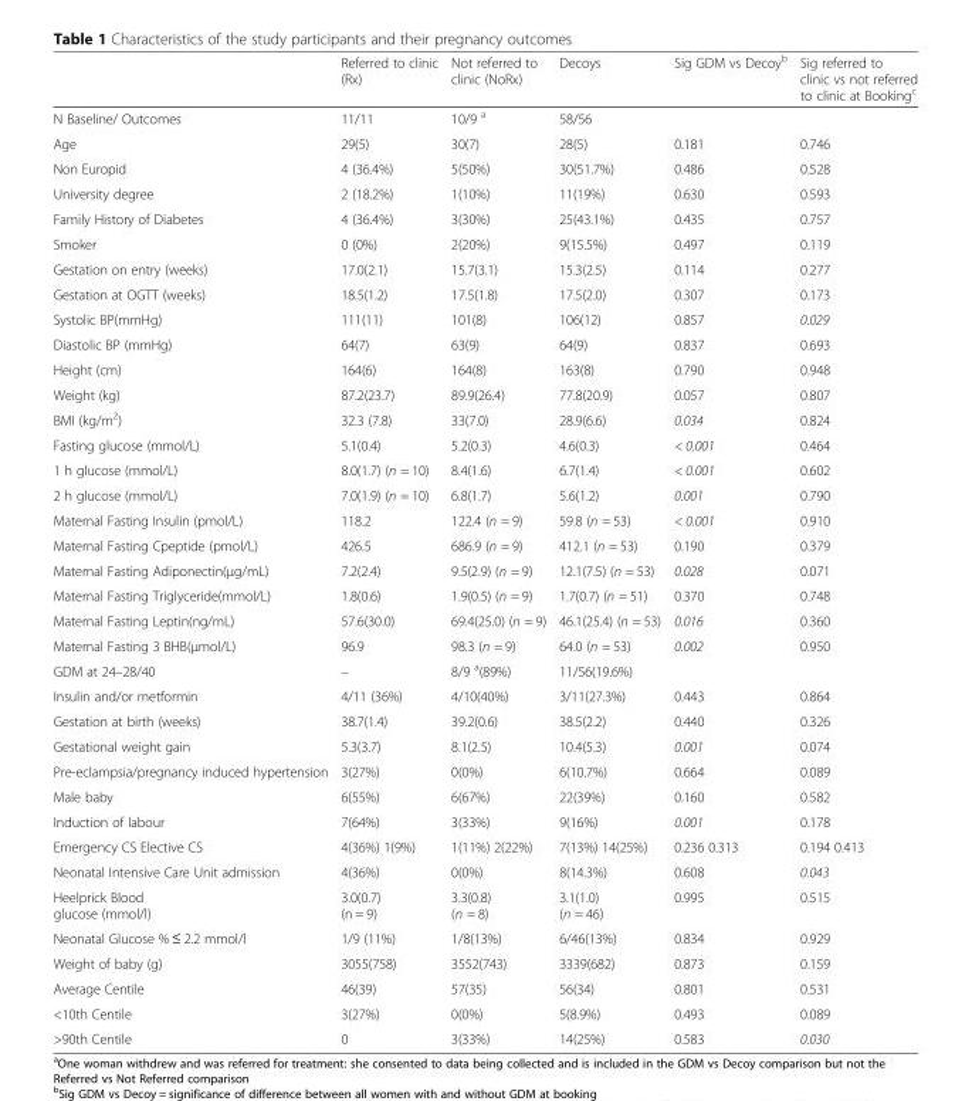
<table><thead><tr><td></td><td>Referred to clinic (Rx)</td><td>Not referred to clinic (NoRx)</td><td>Decoys</td><td>Sig GDM vs Decoy<sup>b</sup></td><td>Sig referred to clinic vs not referred to clinic at Booking<sup>c</sup></td></tr></thead><tbody><tr><td>N Baseline/ Outcomes</td><td>11/11</td><td>10/9 <sup>a</sup></td><td>58/56</td><td></td><td></td></tr><tr><td>Age</td><td>29(5)</td><td>30(7)</td><td>28(5)</td><td>0.181</td><td>0.746</td></tr><tr><td>Non Europid</td><td>4 (36.4%)</td><td>5(50%)</td><td>30(51.7%)</td><td>0.486</td><td>0.528</td></tr><tr><td>University degree</td><td>2 (18.2%)</td><td>1(10%)</td><td>11(19%)</td><td>0.630</td><td>0.593</td></tr><tr><td>Family History of Diabetes</td><td>4 (36.4%)</td><td>3(30%)</td><td>25(43.1%)</td><td>0.435</td><td>0.757</td></tr><tr><td>Smoker</td><td>0 (0%)</td><td>2(20%)</td><td>9(15.5%)</td><td>0.497</td><td>0.119</td></tr><tr><td>Gestation on entry (weeks)</td><td>17.0(2.1)</td><td>15.7(3.1)</td><td>15.3(2.5)</td><td>0.114</td><td>0.277</td></tr><tr><td>Gestation at OGTT (weeks)</td><td>18.5(1.2)</td><td>17.5(1.8)</td><td>17.5(2.0)</td><td>0.307</td><td>0.173</td></tr><tr><td>Systolic BP(mmHg)</td><td>111(11)</td><td>101(8)</td><td>106(12)</td><td>0.857</td><td>0.029</td></tr><tr><td>Diastolic BP (mmHg)</td><td>64(7)</td><td>63(9)</td><td>64(9)</td><td>0.837</td><td>0.693</td></tr><tr><td>Height (cm)</td><td>164(6)</td><td>164(8)</td><td>163(8)</td><td>0.790</td><td>0.948</td></tr><tr><td>Weight (kg)</td><td>87.2(23.7)</td><td>89.9(26.4)</td><td>77.8(20.9)</td><td>0.057</td><td>0.807</td></tr><tr><td>BMI (kg/m<sup>2</sup>)</td><td>32.3 (7.8)</td><td>33(7.0)</td><td>28.9(6.6)</td><td>0.034</td><td>0.824</td></tr><tr><td>Fasting glucose (mmol/L)</td><td>5.1(0.4)</td><td>5.2(0.3)</td><td>4.6(0.3)</td><td>&lt; 0.001</td><td>0.464</td></tr><tr><td>1 h glucose (mmol/L)</td><td>8.0(1.7) (n = 10)</td><td>8.4(1.6)</td><td>6.7(1.4)</td><td>&lt; 0.001</td><td>0.602</td></tr><tr><td>2 h glucose (mmol/L)</td><td>7.0(1.9) (n = 10)</td><td>6.8(1.7)</td><td>5.6(1.2)</td><td>0.001</td><td>0.790</td></tr><tr><td>Maternal Fasting Insulin (pmol/L)</td><td>118.2</td><td>122.4 (n = 9)</td><td>59.8 (n = 53)</td><td>&lt; 0.001</td><td>0.910</td></tr><tr><td>Maternal Fasting Cpeptide (pmol/L)</td><td>426.5</td><td>686.9 (n = 9)</td><td>412.1 (n = 53)</td><td>0.190</td><td>0.379</td></tr><tr><td>Maternal Fasting Adiponectin(μg/mL)</td><td>7.2(2.4)</td><td>9.5(2.9) (n = 9)</td><td>12.1(7.5) (n = 53)</td><td>0.028</td><td>0.071</td></tr><tr><td>Maternal Fasting Triglyceride(mmol/L)</td><td>1.8(0.6)</td><td>1.9(0.5) (n = 9)</td><td>1.7(0.7) (n = 51)</td><td>0.370</td><td>0.748</td></tr><tr><td>Maternal Fasting Leptin(ng/mL)</td><td>57.6(30.0)</td><td>69.4(25.0) (n = 9)</td><td>46.1(25.4) (n = 53)</td><td>0.016</td><td>0.360</td></tr><tr><td>Maternal Fasting 3 BHB(μmol/L)</td><td>96.9</td><td>98.3 (n = 9)</td><td>64.0 (n = 53)</td><td>0.002</td><td>0.950</td></tr><tr><td>GDM at 24–28/40</td><td>–</td><td>8/9 <sup>a</sup>(89%)</td><td>11/56(19.6%)</td><td></td><td></td></tr><tr><td>Insulin and/or metformin</td><td>4/11 (36%)</td><td>4/10(40%)</td><td>3/11(27.3%)</td><td>0.443</td><td>0.864</td></tr><tr><td>Gestation at birth (weeks)</td><td>38.7(1.4)</td><td>39.2(0.6)</td><td>38.5(2.2)</td><td>0.440</td><td>0.326</td></tr><tr><td>Gestational weight gain</td><td>5.3(3.7)</td><td>8.1(2.5)</td><td>10.4(5.3)</td><td>0.001</td><td>0.074</td></tr><tr><td>Pre-eclampsia/pregnancy induced hypertension</td><td>3(27%)</td><td>0(0%)</td><td>6(10.7%)</td><td>0.664</td><td>0.089</td></tr><tr><td>Male baby</td><td>6(55%)</td><td>6(67%)</td><td>22(39%)</td><td>0.160</td><td>0.582</td></tr><tr><td>Induction of labour</td><td>7(64%)</td><td>3(33%)</td><td>9(16%)</td><td>0.001</td><td>0.178</td></tr><tr><td>Emergency CS Elective CS</td><td>4(36%) 1(9%)</td><td>1(11%) 2(22%)</td><td>7(13%) 14(25%)</td><td>0.236 0.313</td><td>0.194 0.413</td></tr><tr><td>Neonatal Intensive Care Unit admission</td><td>4(36%)</td><td>0(0%)</td><td>8(14.3%)</td><td>0.608</td><td>0.043</td></tr><tr><td>Heelprick Blood glucose (mmol/l)</td><td>3.0(0.7) (n = 9)</td><td>3.3(0.8) (n = 8)</td><td>3.1(1.0) (n = 46)</td><td>0.995</td><td>0.515</td></tr><tr><td>Neonatal Glucose % ≤ 2.2 mmol/l</td><td>1/9 (11%)</td><td>1/8(13%)</td><td>6/46(13%)</td><td>0.834</td><td>0.929</td></tr><tr><td>Weight of baby (g)</td><td>3055(758)</td><td>3552(743)</td><td>3339(682)</td><td>0.873</td><td>0.159</td></tr><tr><td>Average Centile</td><td>46(39)</td><td>57(35)</td><td>56(34)</td><td>0.801</td><td>0.531</td></tr><tr><td>&lt;10th Centile</td><td>3(27%)</td><td>0(0%)</td><td>5(8.9%)</td><td>0.493</td><td>0.089</td></tr><tr><td>&gt;90th Centile</td><td>0</td><td>3(33%)</td><td>14(25%)</td><td>0.583</td><td>0.030</td></tr></tbody></table>